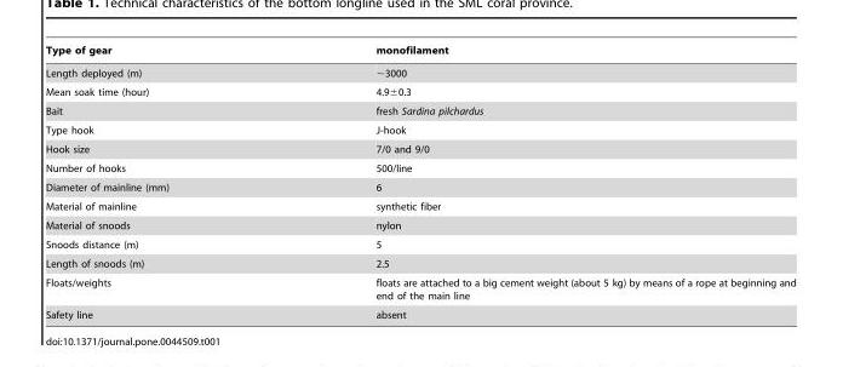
<table><thead><tr><td>Type of gear</td><td>monofilament</td></tr></thead><tbody><tr><td>Length deployed (m)</td><td>∼3000</td></tr><tr><td>Mean soak time (hour)</td><td>4.9±0.3</td></tr><tr><td>Bait</td><td>fresh Sardina pilchardus</td></tr><tr><td>Type hook</td><td>J-hook</td></tr><tr><td>Hook size</td><td>7/0 and 9/0</td></tr><tr><td>Number of hooks</td><td>500/line</td></tr><tr><td>Diameter of mainline (mm)</td><td>6</td></tr><tr><td>Material of mainline</td><td>synthetic fiber</td></tr><tr><td>Material of snoods</td><td>nylon</td></tr><tr><td>Snoods distance (m)</td><td>5</td></tr><tr><td>Length of snoods (m)</td><td>2.5</td></tr><tr><td>Floats/weights</td><td>floats are attached to a big cement weight (about 5 kg) by means of a rope at beginning and end of the main line</td></tr><tr><td>Safety line</td><td>absent</td></tr></tbody></table>